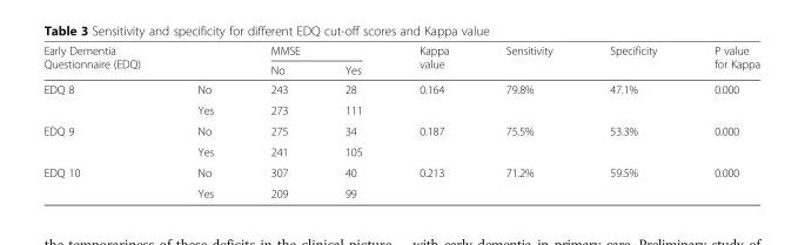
<table><thead><tr><td rowspan="2">Early Dementia Questionnaire (EDQ)</td><td rowspan="2"></td><td colspan="2">MMSE</td><td rowspan="2">Kappa value</td><td rowspan="2">Sensitivity</td><td rowspan="2">Specificity</td><td rowspan="2">P value for Kappa</td></tr><tr><td>No</td><td>Yes</td></tr></thead><tbody><tr><td rowspan="2">EDQ 8</td><td>No</td><td>243</td><td>28</td><td rowspan="2">0.164</td><td rowspan="2">79.8%</td><td rowspan="2">47.1%</td><td rowspan="2">0.000</td></tr><tr><td>Yes</td><td>273</td><td>111</td></tr><tr><td rowspan="2">EDQ 9</td><td>No</td><td>275</td><td>34</td><td rowspan="2">0.187</td><td rowspan="2">75.5%</td><td rowspan="2">53.3%</td><td rowspan="2">0.000</td></tr><tr><td>Yes</td><td>241</td><td>105</td></tr><tr><td rowspan="2">EDQ 10</td><td>No</td><td>307</td><td>40</td><td rowspan="2">0.213</td><td rowspan="2">71.2%</td><td rowspan="2">59.5%</td><td rowspan="2">0.000</td></tr><tr><td>Yes</td><td>209</td><td>99</td></tr></tbody></table>